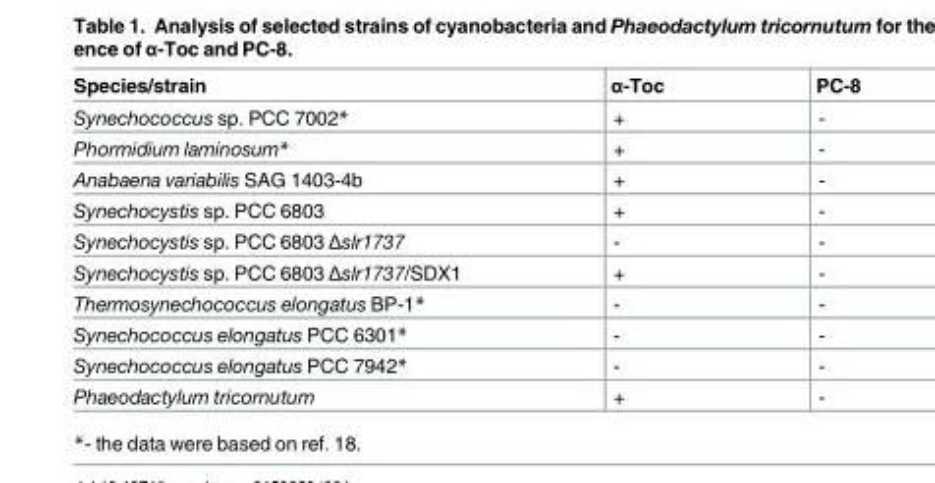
<table><thead><tr><td>Species/strain</td><td>α-Toc</td><td>PC-8</td></tr></thead><tbody><tr><td>Synechococcus sp. PCC 7002*</td><td>+</td><td>-</td></tr><tr><td>Phormidium laminosum*</td><td>+</td><td>-</td></tr><tr><td>Anabaena variabilis SAG 1403-4b</td><td>+</td><td>-</td></tr><tr><td>Synechocystis sp. PCC 6803</td><td>+</td><td>-</td></tr><tr><td>Synechocystis sp. PCC 6803 Δslr1737</td><td>-</td><td>-</td></tr><tr><td>Synechocystis sp. PCC 6803 Δslr1737/SDX1</td><td>+</td><td>-</td></tr><tr><td>Thermosynechococcus elongatus BP-1*</td><td>-</td><td>-</td></tr><tr><td>Synechococcus elongatus PCC 6301*</td><td>-</td><td>-</td></tr><tr><td>Synechococcus elongatus PCC 7942*</td><td>-</td><td>-</td></tr><tr><td>Phaeodactylum tricornutum</td><td>+</td><td>-</td></tr></tbody></table>